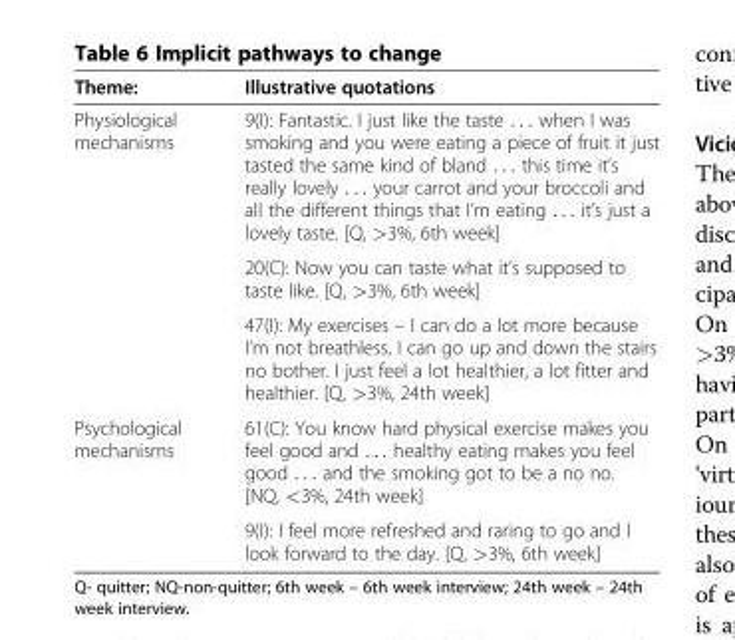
<table><thead><tr><td>Theme:</td><td>Illustrative quotations</td></tr></thead><tbody><tr><td rowspan="3">Physiological mechanisms</td><td>9(I): Fantastic. I just like the taste . . . when I was smoking and you were eating a piece of fruit it just tasted the same kind of bland . . . this time it’s really lovely . . . your carrot and your broccoli and all the different things that I’m eating . . . it’s just a lovely taste. [Q, &gt;3%, 6th week]</td></tr><tr><td>20(C): Now you can taste what it’s supposed to taste like. [Q, &gt;3%, 6th week]</td></tr><tr><td>47(I): My exercises – I can do a lot more because I’m not breathless, I can go up and down the stairs no bother. I just feel a lot healthier, a lot fitter and healthier. [Q, &gt;3%, 24th week]</td></tr><tr><td rowspan="2">Psychological mechanisms</td><td>61(C): You know hard physical exercise makes you feel good and . . . healthy eating makes you feel good . . . and the smoking got to be a no no. [NQ, &lt;3%, 24th week]</td></tr><tr><td>9(I): I feel more refreshed and raring to go and I look forward to the day. [Q, &gt;3%, 6th week]</td></tr></tbody></table>